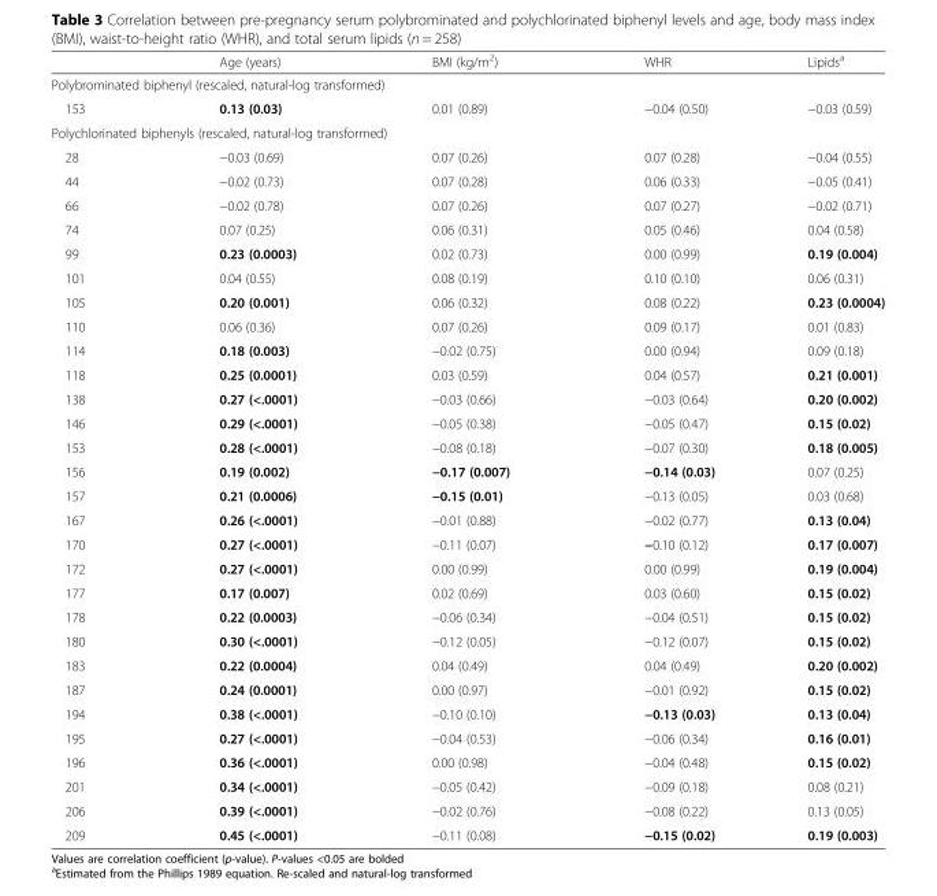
<table><thead><tr><td></td><td>Age (years)</td><td>BMI (kg/m<sup>2</sup>)</td><td>WHR</td><td>Lipids<sup>a</sup></td></tr></thead><tbody><tr><td colspan="5">Polybrominated biphenyl (rescaled, natural-log transformed)</td></tr><tr><td>153</td><td>0.13 (0.03)</td><td>0.01 (0.89)</td><td>−0.04 (0.50)</td><td>−0.03 (0.59)</td></tr><tr><td colspan="5">Polychlorinated biphenyls (rescaled, natural-log transformed)</td></tr><tr><td>28</td><td>−0.03 (0.69)</td><td>0.07 (0.26)</td><td>0.07 (0.28)</td><td>−0.04 (0.55)</td></tr><tr><td>44</td><td>−0.02 (0.73)</td><td>0.07 (0.28)</td><td>0.06 (0.33)</td><td>−0.05 (0.41)</td></tr><tr><td>66</td><td>−0.02 (0.78)</td><td>0.07 (0.26)</td><td>0.07 (0.27)</td><td>−0.02 (0.71)</td></tr><tr><td>74</td><td>0.07 (0.25)</td><td>0.06 (0.31)</td><td>0.05 (0.46)</td><td>0.04 (0.58)</td></tr><tr><td>99</td><td>0.23 (0.0003)</td><td>0.02 (0.73)</td><td>0.00 (0.99)</td><td>0.19 (0.004)</td></tr><tr><td>101</td><td>0.04 (0.55)</td><td>0.08 (0.19)</td><td>0.10 (0.10)</td><td>0.06 (0.31)</td></tr><tr><td>105</td><td>0.20 (0.001)</td><td>0.06 (0.32)</td><td>0.08 (0.22)</td><td>0.23 (0.0004)</td></tr><tr><td>110</td><td>0.06 (0.36)</td><td>0.07 (0.26)</td><td>0.09 (0.17)</td><td>0.01 (0.83)</td></tr><tr><td>114</td><td>0.18 (0.003)</td><td>−0.02 (0.75)</td><td>0.00 (0.94)</td><td>0.09 (0.18)</td></tr><tr><td>118</td><td>0.25 (0.0001)</td><td>0.03 (0.59)</td><td>0.04 (0.57)</td><td>0.21 (0.001)</td></tr><tr><td>138</td><td>0.27 (&lt;.0001)</td><td>−0.03 (0.66)</td><td>−0.03 (0.64)</td><td>0.20 (0.002)</td></tr><tr><td>146</td><td>0.29 (&lt;.0001)</td><td>−0.05 (0.38)</td><td>−0.05 (0.47)</td><td>0.15 (0.02)</td></tr><tr><td>153</td><td>0.28 (&lt;.0001)</td><td>−0.08 (0.18)</td><td>−0.07 (0.30)</td><td>0.18 (0.005)</td></tr><tr><td>156</td><td>0.19 (0.002)</td><td>−0.17 (0.007)</td><td>−0.14 (0.03)</td><td>0.07 (0.25)</td></tr><tr><td>157</td><td>0.21 (0.0006)</td><td>−0.15 (0.01)</td><td>−0.13 (0.05)</td><td>0.03 (0.68)</td></tr><tr><td>167</td><td>0.26 (&lt;.0001)</td><td>−0.01 (0.88)</td><td>−0.02 (0.77)</td><td>0.13 (0.04)</td></tr><tr><td>170</td><td>0.27 (&lt;.0001)</td><td>−0.11 (0.07)</td><td>−0.10 (0.12)</td><td>0.17 (0.007)</td></tr><tr><td>172</td><td>0.27 (&lt;.0001)</td><td>0.00 (0.99)</td><td>0.00 (0.99)</td><td>0.19 (0.004)</td></tr><tr><td>177</td><td>0.17 (0.007)</td><td>0.02 (0.69)</td><td>0.03 (0.60)</td><td>0.15 (0.02)</td></tr><tr><td>178</td><td>0.22 (0.0003)</td><td>−0.06 (0.34)</td><td>−0.04 (0.51)</td><td>0.15 (0.02)</td></tr><tr><td>180</td><td>0.30 (&lt;.0001)</td><td>−0.12 (0.05)</td><td>−0.12 (0.07)</td><td>0.15 (0.02)</td></tr><tr><td>183</td><td>0.22 (0.0004)</td><td>0.04 (0.49)</td><td>0.04 (0.49)</td><td>0.20 (0.002)</td></tr><tr><td>187</td><td>0.24 (0.0001)</td><td>0.00 (0.97)</td><td>−0.01 (0.92)</td><td>0.15 (0.02)</td></tr><tr><td>194</td><td>0.38 (&lt;.0001)</td><td>−0.10 (0.10)</td><td>−0.13 (0.03)</td><td>0.13 (0.04)</td></tr><tr><td>195</td><td>0.27 (&lt;.0001)</td><td>−0.04 (0.53)</td><td>−0.06 (0.34)</td><td>0.16 (0.01)</td></tr><tr><td>196</td><td>0.36 (&lt;.0001)</td><td>0.00 (0.98)</td><td>−0.04 (0.48)</td><td>0.15 (0.02)</td></tr><tr><td>201</td><td>0.34 (&lt;.0001)</td><td>−0.05 (0.42)</td><td>−0.09 (0.18)</td><td>0.08 (0.21)</td></tr><tr><td>206</td><td>0.39 (&lt;.0001)</td><td>−0.02 (0.76)</td><td>−0.08 (0.22)</td><td>0.13 (0.05)</td></tr><tr><td>209</td><td>0.45 (&lt;.0001)</td><td>−0.11 (0.08)</td><td>−0.15 (0.02)</td><td>0.19 (0.003)</td></tr></tbody></table>